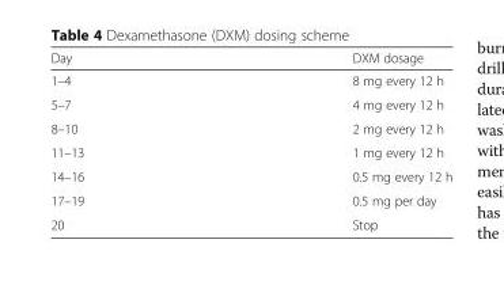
<table><thead><tr><td>Day</td><td>DXM dosage</td></tr></thead><tbody><tr><td>1–4</td><td>8 mg every 12 h</td></tr><tr><td>5–7</td><td>4 mg every 12 h</td></tr><tr><td>8–10</td><td>2 mg every 12 h</td></tr><tr><td>11–13</td><td>1 mg every 12 h</td></tr><tr><td>14–16</td><td>0.5 mg every 12 h</td></tr><tr><td>17–19</td><td>0.5 mg per day</td></tr><tr><td>20</td><td>Stop</td></tr></tbody></table>